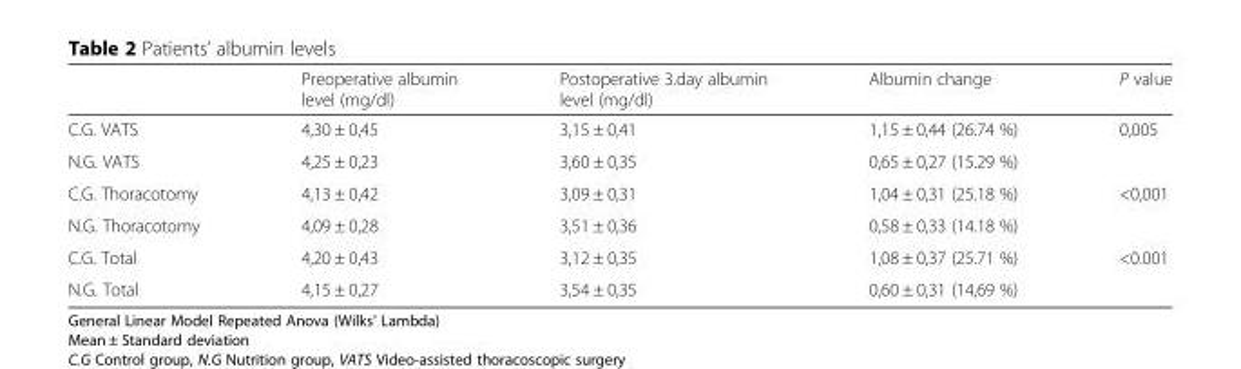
<table><thead><tr><td></td><td>Preoperative albumin level (mg/dl)</td><td>Postoperative 3.day albumin level (mg/dl)</td><td>Albumin change</td><td>P value</td></tr></thead><tbody><tr><td>C.G. VATS</td><td>4,30 ± 0,45</td><td>3,15 ± 0,41</td><td>1,15 ± 0,44 (26.74 %)</td><td rowspan="2">0,005</td></tr><tr><td>N.G. VATS</td><td>4,25 ± 0,23</td><td>3,60 ± 0,35</td><td>0,65 ± 0,27 (15.29 %)</td></tr><tr><td>C.G. Thoracotomy</td><td>4,13 ± 0,42</td><td>3,09 ± 0,31</td><td>1,04 ± 0,31 (25.18 %)</td><td rowspan="2">&lt;0,001</td></tr><tr><td>N.G. Thoracotomy</td><td>4,09 ± 0,28</td><td>3,51 ± 0,36</td><td>0,58 ± 0,33 (14.18 %)</td></tr><tr><td>C.G. Total</td><td>4,20 ± 0,43</td><td>3,12 ± 0,35</td><td>1,08 ± 0,37 (25.71 %)</td><td rowspan="2">&lt;0.001</td></tr><tr><td>N.G. Total</td><td>4,15 ± 0,27</td><td>3,54 ± 0,35</td><td>0,60 ± 0,31 (14,69 %)</td></tr></tbody></table>